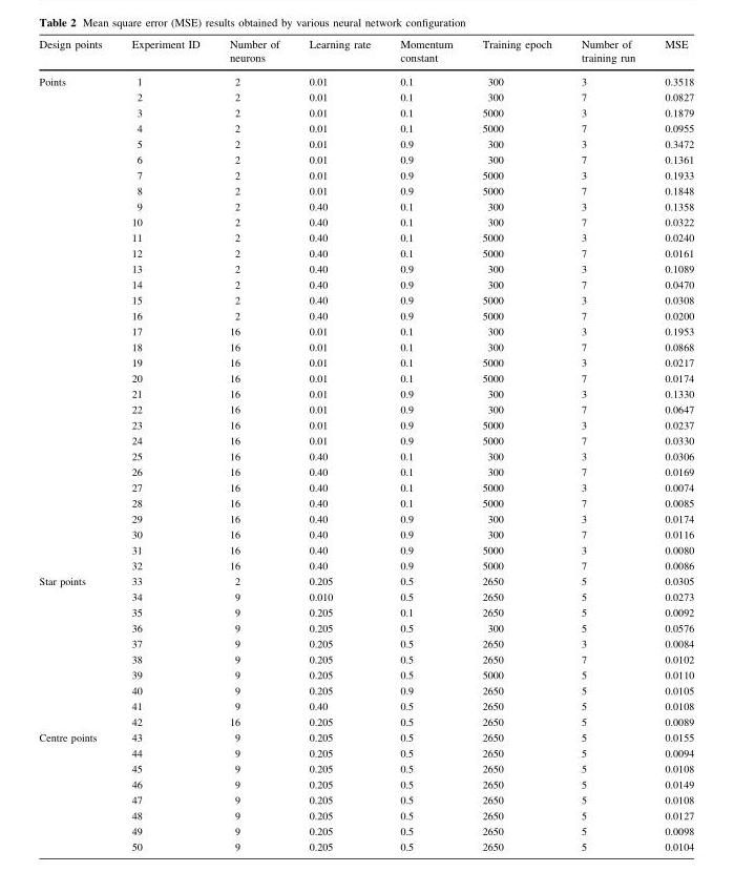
<table><thead><tr><td>Design points</td><td>Experiment ID</td><td>Number of neurons</td><td>Learning rate</td><td>Momentum constant</td><td>Training epoch</td><td>Number of training run</td><td>MSE</td></tr></thead><tbody><tr><td rowspan="32">Points</td><td>1</td><td>2</td><td>0.01</td><td>0.1</td><td>300</td><td>3</td><td>0.3518</td></tr><tr><td>2</td><td>2</td><td>0.01</td><td>0.1</td><td>300</td><td>7</td><td>0.0827</td></tr><tr><td>3</td><td>2</td><td>0.01</td><td>0.1</td><td>5000</td><td>3</td><td>0.1879</td></tr><tr><td>4</td><td>2</td><td>0.01</td><td>0.1</td><td>5000</td><td>7</td><td>0.0955</td></tr><tr><td>5</td><td>2</td><td>0.01</td><td>0.9</td><td>300</td><td>3</td><td>0.3472</td></tr><tr><td>6</td><td>2</td><td>0.01</td><td>0.9</td><td>300</td><td>7</td><td>0.1361</td></tr><tr><td>7</td><td>2</td><td>0.01</td><td>0.9</td><td>5000</td><td>3</td><td>0.1933</td></tr><tr><td>8</td><td>2</td><td>0.01</td><td>0.9</td><td>5000</td><td>7</td><td>0.1848</td></tr><tr><td>9</td><td>2</td><td>0.40</td><td>0.1</td><td>300</td><td>3</td><td>0.1358</td></tr><tr><td>10</td><td>2</td><td>0.40</td><td>0.1</td><td>300</td><td>7</td><td>0.0322</td></tr><tr><td>11</td><td>2</td><td>0.40</td><td>0.1</td><td>5000</td><td>3</td><td>0.0240</td></tr><tr><td>12</td><td>2</td><td>0.40</td><td>0.1</td><td>5000</td><td>7</td><td>0.0161</td></tr><tr><td>13</td><td>2</td><td>0.40</td><td>0.9</td><td>300</td><td>3</td><td>0.1089</td></tr><tr><td>14</td><td>2</td><td>0.40</td><td>0.9</td><td>300</td><td>7</td><td>0.0470</td></tr><tr><td>15</td><td>2</td><td>0.40</td><td>0.9</td><td>5000</td><td>3</td><td>0.0308</td></tr><tr><td>16</td><td>2</td><td>0.40</td><td>0.9</td><td>5000</td><td>7</td><td>0.0200</td></tr><tr><td>17</td><td>16</td><td>0.01</td><td>0.1</td><td>300</td><td>3</td><td>0.1953</td></tr><tr><td>18</td><td>16</td><td>0.01</td><td>0.1</td><td>300</td><td>7</td><td>0.0868</td></tr><tr><td>19</td><td>16</td><td>0.01</td><td>0.1</td><td>5000</td><td>3</td><td>0.0217</td></tr><tr><td>20</td><td>16</td><td>0.01</td><td>0.1</td><td>5000</td><td>7</td><td>0.0174</td></tr><tr><td>21</td><td>16</td><td>0.01</td><td>0.9</td><td>300</td><td>3</td><td>0.1330</td></tr><tr><td>22</td><td>16</td><td>0.01</td><td>0.9</td><td>300</td><td>7</td><td>0.0647</td></tr><tr><td>23</td><td>16</td><td>0.01</td><td>0.9</td><td>5000</td><td>3</td><td>0.0237</td></tr><tr><td>24</td><td>16</td><td>0.01</td><td>0.9</td><td>5000</td><td>7</td><td>0.0330</td></tr><tr><td>25</td><td>16</td><td>0.40</td><td>0.1</td><td>300</td><td>3</td><td>0.0306</td></tr><tr><td>26</td><td>16</td><td>0.40</td><td>0.1</td><td>300</td><td>7</td><td>0.0169</td></tr><tr><td>27</td><td>16</td><td>0.40</td><td>0.1</td><td>5000</td><td>3</td><td>0.0074</td></tr><tr><td>28</td><td>16</td><td>0.40</td><td>0.1</td><td>5000</td><td>7</td><td>0.0085</td></tr><tr><td>29</td><td>16</td><td>0.40</td><td>0.9</td><td>300</td><td>3</td><td>0.0174</td></tr><tr><td>30</td><td>16</td><td>0.40</td><td>0.9</td><td>300</td><td>7</td><td>0.0116</td></tr><tr><td>31</td><td>16</td><td>0.40</td><td>0.9</td><td>5000</td><td>3</td><td>0.0080</td></tr><tr><td>32</td><td>16</td><td>0.40</td><td>0.9</td><td>5000</td><td>7</td><td>0.0086</td></tr><tr><td rowspan="10">Star points</td><td>33</td><td>2</td><td>0.205</td><td>0.5</td><td>2650</td><td>5</td><td>0.0305</td></tr><tr><td>34</td><td>9</td><td>0.010</td><td>0.5</td><td>2650</td><td>5</td><td>0.0273</td></tr><tr><td>35</td><td>9</td><td>0.205</td><td>0.1</td><td>2650</td><td>5</td><td>0.0092</td></tr><tr><td>36</td><td>9</td><td>0.205</td><td>0.5</td><td>300</td><td>5</td><td>0.0576</td></tr><tr><td>37</td><td>9</td><td>0.205</td><td>0.5</td><td>2650</td><td>3</td><td>0.0084</td></tr><tr><td>38</td><td>9</td><td>0.205</td><td>0.5</td><td>2650</td><td>7</td><td>0.0102</td></tr><tr><td>39</td><td>9</td><td>0.205</td><td>0.5</td><td>5000</td><td>5</td><td>0.0110</td></tr><tr><td>40</td><td>9</td><td>0.205</td><td>0.9</td><td>2650</td><td>5</td><td>0.0105</td></tr><tr><td>41</td><td>9</td><td>0.40</td><td>0.5</td><td>2650</td><td>5</td><td>0.0108</td></tr><tr><td>42</td><td>16</td><td>0.205</td><td>0.5</td><td>2650</td><td>5</td><td>0.0089</td></tr><tr><td rowspan="8">Centre points</td><td>43</td><td>9</td><td>0.205</td><td>0.5</td><td>2650</td><td>5</td><td>0.0155</td></tr><tr><td>44</td><td>9</td><td>0.205</td><td>0.5</td><td>2650</td><td>5</td><td>0.0094</td></tr><tr><td>45</td><td>9</td><td>0.205</td><td>0.5</td><td>2650</td><td>5</td><td>0.0108</td></tr><tr><td>46</td><td>9</td><td>0.205</td><td>0.5</td><td>2650</td><td>5</td><td>0.0149</td></tr><tr><td>47</td><td>9</td><td>0.205</td><td>0.5</td><td>2650</td><td>5</td><td>0.0108</td></tr><tr><td>48</td><td>9</td><td>0.205</td><td>0.5</td><td>2650</td><td>5</td><td>0.0127</td></tr><tr><td>49</td><td>9</td><td>0.205</td><td>0.5</td><td>2650</td><td>5</td><td>0.0098</td></tr><tr><td>50</td><td>9</td><td>0.205</td><td>0.5</td><td>2650</td><td>5</td><td>0.0104</td></tr></tbody></table>